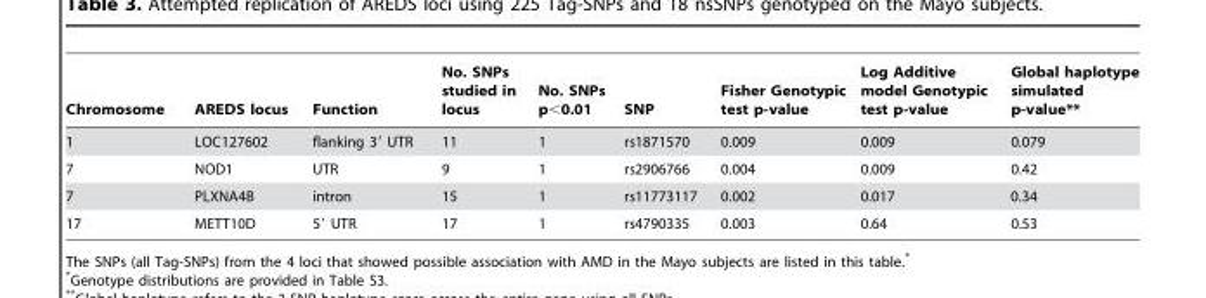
<table><thead><tr><td>Chromosome</td><td>AREDS locus</td><td>Function</td><td>No. SNPs studied in locus</td><td>No. SNPs p&lt;0.01</td><td>SNP</td><td>Fisher Genotypic test p-value</td><td>Log Additive model Genotypic test p-value</td><td>Global haplotype simulated p-value**</td></tr></thead><tbody><tr><td>1</td><td>LOC127602</td><td>flanking 3′ UTR</td><td>11</td><td>1</td><td>rs1871570</td><td>0.009</td><td>0.009</td><td>0.079</td></tr><tr><td>7</td><td>NOD1</td><td>UTR</td><td>9</td><td>1</td><td>rs2906766</td><td>0.004</td><td>0.009</td><td>0.42</td></tr><tr><td>7</td><td>PLXNA4B</td><td>intron</td><td>15</td><td>1</td><td>rs11773117</td><td>0.002</td><td>0.017</td><td>0.34</td></tr><tr><td>17</td><td>METT10D</td><td>5′ UTR</td><td>17</td><td>1</td><td>rs4790335</td><td>0.003</td><td>0.64</td><td>0.53</td></tr></tbody></table>